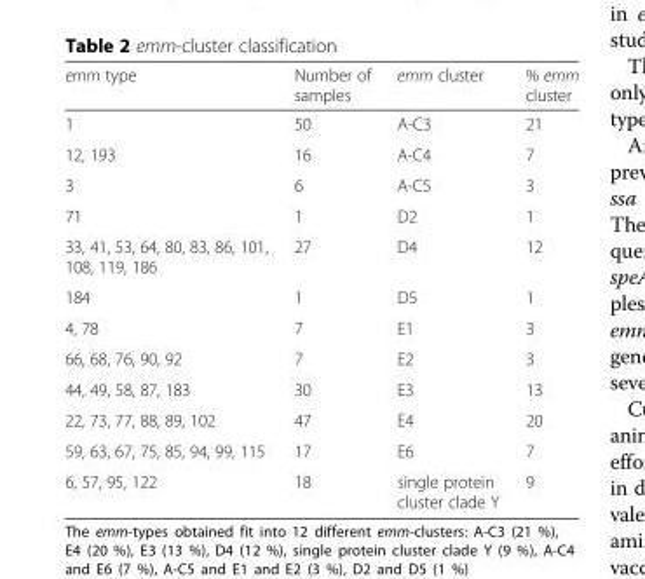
<table><thead><tr><td>emm type</td><td>Number of samples</td><td>emm cluster</td><td>% emm cluster</td></tr></thead><tbody><tr><td>1</td><td>50</td><td>A-C3</td><td>21</td></tr><tr><td>12, 193</td><td>16</td><td>A-C4</td><td>7</td></tr><tr><td>3</td><td>6</td><td>A-C5</td><td>3</td></tr><tr><td>71</td><td>1</td><td>D2</td><td>1</td></tr><tr><td>33, 41, 53, 64, 80, 83, 86, 101, 108, 119, 186</td><td>27</td><td>D4</td><td>12</td></tr><tr><td>184</td><td>1</td><td>D5</td><td>1</td></tr><tr><td>4, 78</td><td>7</td><td>E1</td><td>3</td></tr><tr><td>66, 68, 76, 90, 92</td><td>7</td><td>E2</td><td>3</td></tr><tr><td>44, 49, 58, 87, 183</td><td>30</td><td>E3</td><td>13</td></tr><tr><td>22, 73, 77, 88, 89, 102</td><td>47</td><td>E4</td><td>20</td></tr><tr><td>59, 63, 67, 75, 85, 94, 99, 115</td><td>17</td><td>E6</td><td>7</td></tr><tr><td>6, 57, 95, 122</td><td>18</td><td>single protein cluster clade Y</td><td>9</td></tr></tbody></table>